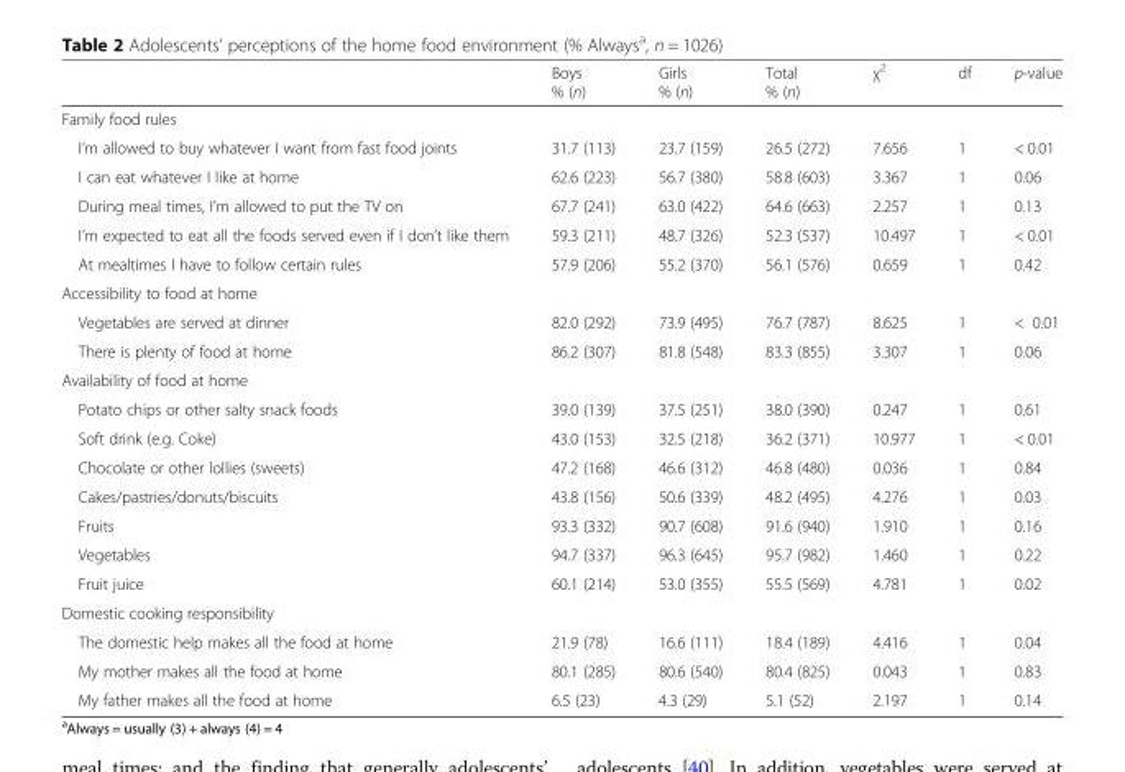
<table><thead><tr><td></td><td>Boys % (n)</td><td>Girls % (n)</td><td>Total % (n)</td><td>χ<sup>2</sup></td><td>df</td><td>p-value</td></tr></thead><tbody><tr><td colspan="7">Family food rules</td></tr><tr><td>I’m allowed to buy whatever I want from fast food joints</td><td>31.7 (113)</td><td>23.7 (159)</td><td>26.5 (272)</td><td>7.656</td><td>1</td><td>&lt; 0.01</td></tr><tr><td>I can eat whatever I like at home</td><td>62.6 (223)</td><td>56.7 (380)</td><td>58.8 (603)</td><td>3.367</td><td>1</td><td>0.06</td></tr><tr><td>During meal times, I’m allowed to put the TV on</td><td>67.7 (241)</td><td>63.0 (422)</td><td>64.6 (663)</td><td>2.257</td><td>1</td><td>0.13</td></tr><tr><td>I’m expected to eat all the foods served even if I don’t like them</td><td>59.3 (211)</td><td>48.7 (326)</td><td>52.3 (537)</td><td>10.497</td><td>1</td><td>&lt; 0.01</td></tr><tr><td>At mealtimes I have to follow certain rules</td><td>57.9 (206)</td><td>55.2 (370)</td><td>56.1 (576)</td><td>0.659</td><td>1</td><td>0.42</td></tr><tr><td colspan="7">Accessibility to food at home</td></tr><tr><td>Vegetables are served at dinner</td><td>82.0 (292)</td><td>73.9 (495)</td><td>76.7 (787)</td><td>8.625</td><td>1</td><td>&lt; 0.01</td></tr><tr><td>There is plenty of food at home</td><td>86.2 (307)</td><td>81.8 (548)</td><td>83.3 (855)</td><td>3.307</td><td>1</td><td>0.06</td></tr><tr><td colspan="7">Availability of food at home</td></tr><tr><td>Potato chips or other salty snack foods</td><td>39.0 (139)</td><td>37.5 (251)</td><td>38.0 (390)</td><td>0.247</td><td>1</td><td>0.61</td></tr><tr><td>Soft drink (e.g. Coke)</td><td>43.0 (153)</td><td>32.5 (218)</td><td>36.2 (371)</td><td>10.977</td><td>1</td><td>&lt; 0.01</td></tr><tr><td>Chocolate or other lollies (sweets)</td><td>47.2 (168)</td><td>46.6 (312)</td><td>46.8 (480)</td><td>0.036</td><td>1</td><td>0.84</td></tr><tr><td>Cakes/pastries/donuts/biscuits</td><td>43.8 (156)</td><td>50.6 (339)</td><td>48.2 (495)</td><td>4.276</td><td>1</td><td>0.03</td></tr><tr><td>Fruits</td><td>93.3 (332)</td><td>90.7 (608)</td><td>91.6 (940)</td><td>1.910</td><td>1</td><td>0.16</td></tr><tr><td>Vegetables</td><td>94.7 (337)</td><td>96.3 (645)</td><td>95.7 (982)</td><td>1.460</td><td>1</td><td>0.22</td></tr><tr><td>Fruit juice</td><td>60.1 (214)</td><td>53.0 (355)</td><td>55.5 (569)</td><td>4.781</td><td>1</td><td>0.02</td></tr><tr><td colspan="7">Domestic cooking responsibility</td></tr><tr><td>The domestic help makes all the food at home</td><td>21.9 (78)</td><td>16.6 (111)</td><td>18.4 (189)</td><td>4.416</td><td>1</td><td>0.04</td></tr><tr><td>My mother makes all the food at home</td><td>80.1 (285)</td><td>80.6 (540)</td><td>80.4 (825)</td><td>0.043</td><td>1</td><td>0.83</td></tr><tr><td>My father makes all the food at home</td><td>6.5 (23)</td><td>4.3 (29)</td><td>5.1 (52)</td><td>2.197</td><td>1</td><td>0.14</td></tr></tbody></table>